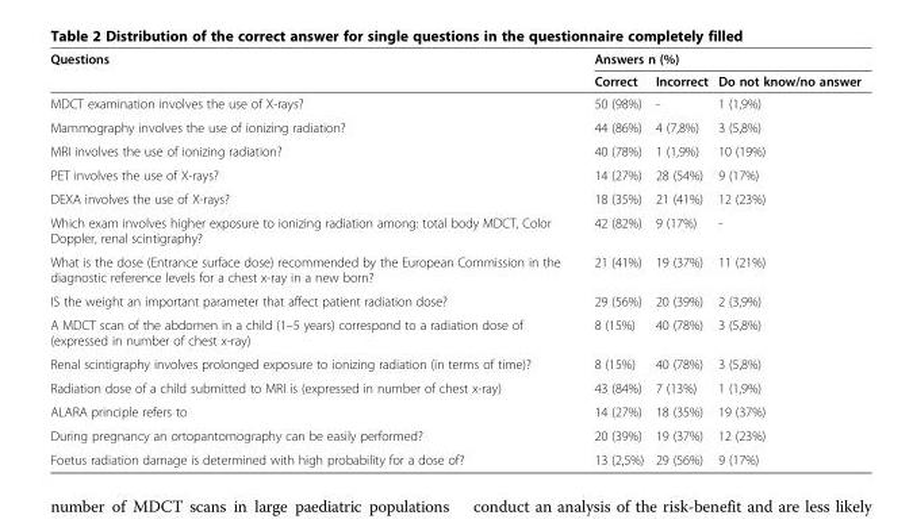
<table><thead><tr><td rowspan="2">Questions</td><td colspan="3">Answers n (%)</td></tr><tr><td>Correct</td><td>Incorrect</td><td>Do not know/no answer</td></tr></thead><tbody><tr><td>MDCT examination involves the use of X-rays?</td><td>50 (98%)</td><td>-</td><td>1 (1,9%)</td></tr><tr><td>Mammography involves the use of ionizing radiation?</td><td>44 (86%)</td><td>4 (7,8%)</td><td>3 (5,8%)</td></tr><tr><td>MRI involves the use of ionizing radiation?</td><td>40 (78%)</td><td>1 (1,9%)</td><td>10 (19%)</td></tr><tr><td>PET involves the use of X-rays?</td><td>14 (27%)</td><td>28 (54%)</td><td>9 (17%)</td></tr><tr><td>DEXA involves the use of X-rays?</td><td>18 (35%)</td><td>21 (41%)</td><td>12 (23%)</td></tr><tr><td>Which exam involves higher exposure to ionizing radiation among: total body MDCT, Color Doppler, renal scintigraphy?</td><td>42 (82%)</td><td>9 (17%)</td><td>-</td></tr><tr><td>What is the dose (Entrance surface dose) recommended by the European Commission in the diagnostic reference levels for a chest x-ray in a new born?</td><td>21 (41%)</td><td>19 (37%)</td><td>11 (21%)</td></tr><tr><td>IS the weight an important parameter that affect patient radiation dose?</td><td>29 (56%)</td><td>20 (39%)</td><td>2 (3,9%)</td></tr><tr><td>A MDCT scan of the abdomen in a child (1–5 years) correspond to a radiation dose of (expressed in number of chest x-ray)</td><td>8 (15%)</td><td>40 (78%)</td><td>3 (5,8%)</td></tr><tr><td>Renal scintigraphy involves prolonged exposure to ionizing radiation (in terms of time)?</td><td>8 (15%)</td><td>40 (78%)</td><td>3 (5,8%)</td></tr><tr><td>Radiation dose of a child submitted to MRI is (expressed in number of chest x-ray)</td><td>43 (84%)</td><td>7 (13%)</td><td>1 (1,9%)</td></tr><tr><td>ALARA principle refers to</td><td>14 (27%)</td><td>18 (35%)</td><td>19 (37%)</td></tr><tr><td>During pregnancy an ortopantomography can be easily performed?</td><td>20 (39%)</td><td>19 (37%)</td><td>12 (23%)</td></tr><tr><td>Foetus radiation damage is determined with high probability for a dose of?</td><td>13 (2,5%)</td><td>29 (56%)</td><td>9 (17%)</td></tr></tbody></table>